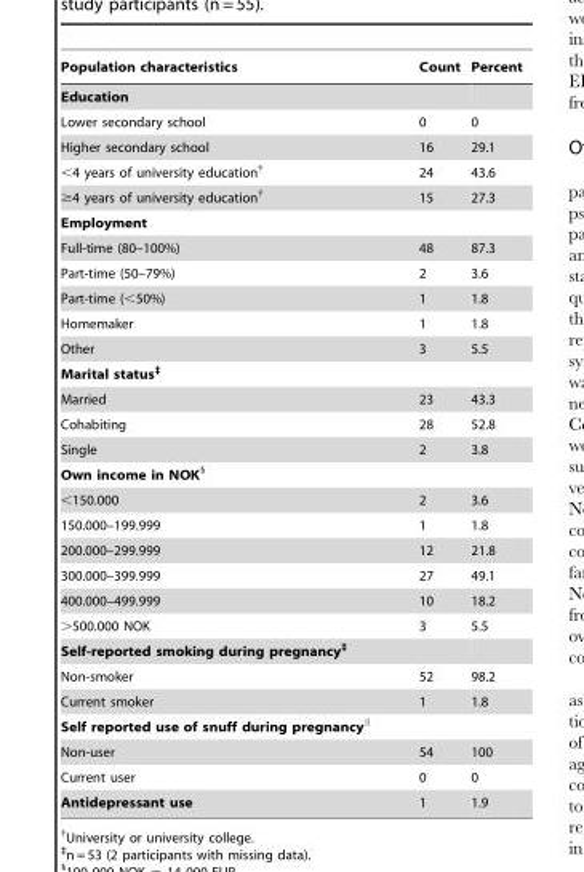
<table><thead><tr><td>Population characteristics</td><td>Count</td><td>Percent</td></tr></thead><tbody><tr><td colspan="3">Education</td></tr><tr><td>Lower secondary school</td><td>0</td><td>0</td></tr><tr><td>Higher secondary school</td><td>16</td><td>29.1</td></tr><tr><td>&lt;4 years of university education†</td><td>24</td><td>43.6</td></tr><tr><td>≥4 years of university education†</td><td>15</td><td>27.3</td></tr><tr><td colspan="3">Employment</td></tr><tr><td>Full-time (80–100%)</td><td>48</td><td>87.3</td></tr><tr><td>Part-time (50–79%)</td><td>2</td><td>3.6</td></tr><tr><td>Part-time (&lt;50%)</td><td>1</td><td>1.8</td></tr><tr><td>Homemaker</td><td>1</td><td>1.8</td></tr><tr><td>Other</td><td>3</td><td>5.5</td></tr><tr><td colspan="3">Marital status‡</td></tr><tr><td>Married</td><td>23</td><td>43.3</td></tr><tr><td>Cohabiting</td><td>28</td><td>52.8</td></tr><tr><td>Single</td><td>2</td><td>3.8</td></tr><tr><td colspan="3">Own income in NOK§</td></tr><tr><td>&lt;150.000</td><td>2</td><td>3.6</td></tr><tr><td>150.000–199.999</td><td>1</td><td>1.8</td></tr><tr><td>200.000–299.999</td><td>12</td><td>21.8</td></tr><tr><td>300.000–399.999</td><td>27</td><td>49.1</td></tr><tr><td>400.000–499.999</td><td>10</td><td>18.2</td></tr><tr><td>&gt;500.000 NOK</td><td>3</td><td>5.5</td></tr><tr><td colspan="3">Self-reported smoking during pregnancy‡</td></tr><tr><td>Non-smoker</td><td>52</td><td>98.2</td></tr><tr><td>Current smoker</td><td>1</td><td>1.8</td></tr><tr><td colspan="3">Self reported use of snuff during pregnancy∥</td></tr><tr><td>Non-user</td><td>54</td><td>100</td></tr><tr><td>Current user</td><td>0</td><td>0</td></tr><tr><td>Antidepressant use</td><td>1</td><td>1.9</td></tr></tbody></table>